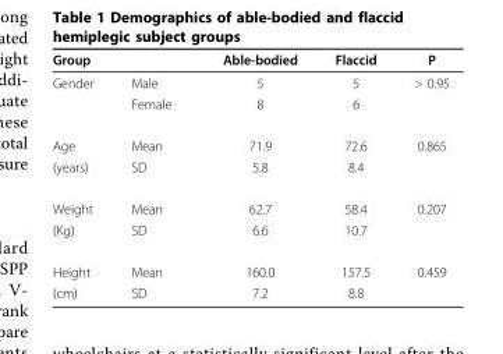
<table><thead><tr><td colspan="2">Group</td><td rowspan="2">Able-bodied 5</td><td rowspan="2">Flaccid 5</td><td rowspan="2">P &gt; 0.95</td></tr><tr><td>Gender</td><td>Male</td></tr></thead><tbody><tr><td></td><td>Female</td><td>8</td><td>6</td><td></td></tr><tr><td>Age</td><td>Mean</td><td>71.9</td><td>72.6</td><td>0.865</td></tr><tr><td>(years)</td><td>SD</td><td>5.8</td><td>8.4</td><td></td></tr><tr><td>Weight</td><td>Mean</td><td>62.7</td><td>58.4</td><td>0.207</td></tr><tr><td>(Kg)</td><td>SD</td><td>6.6</td><td>10.7</td><td></td></tr><tr><td>Height</td><td>Mean</td><td>160.0</td><td>157.5</td><td>0.459</td></tr><tr><td>(cm)</td><td>SD</td><td>7.2</td><td>8.8</td><td></td></tr></tbody></table>